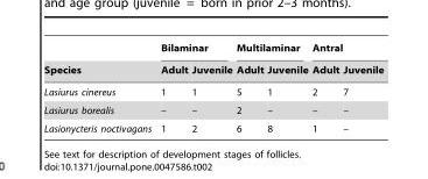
<table><thead><tr><td rowspan="2">Species</td><td colspan="2">Bilaminar</td><td colspan="2">Multilaminar</td><td colspan="2">Antral</td></tr><tr><td>Adult</td><td>Juvenile</td><td>Adult</td><td>Juvenile</td><td>Adult</td><td>Juvenile</td></tr></thead><tbody><tr><td>Lasiurus cinereus</td><td>1</td><td>1</td><td>5</td><td>1</td><td>2</td><td>7</td></tr><tr><td>Lasiurus borealis</td><td>–</td><td>–</td><td>2</td><td>–</td><td>–</td><td>–</td></tr><tr><td>Lasionycteris noctivagans</td><td>1</td><td>2</td><td>6</td><td>8</td><td>1</td><td>–</td></tr></tbody></table>